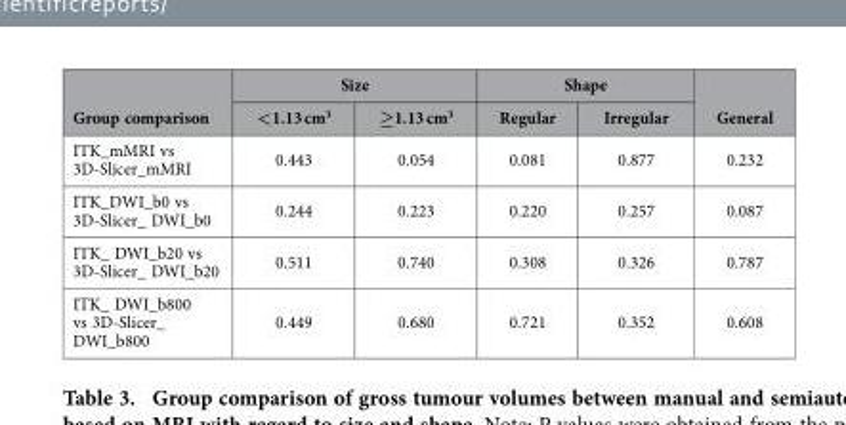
<table><thead><tr><td rowspan="2">Group comparison</td><td colspan="2">Size</td><td colspan="2">Shape</td><td rowspan="2">General</td></tr><tr><td>&lt;1.13 cm<sup>3</sup></td><td>≥1.13 cm<sup>3</sup></td><td>Regular</td><td>Irregular</td></tr></thead><tbody><tr><td>ITK_mMRI vs 3D-Slicer_mMRI</td><td>0.443</td><td>0.054</td><td>0.081</td><td>0.877</td><td>0.232</td></tr><tr><td>ITK_DWI_b0 vs 3D-Slicer_ DWI_b0</td><td>0.244</td><td>0.223</td><td>0.220</td><td>0.257</td><td>0.087</td></tr><tr><td>ITK_ DWI_b20 vs 3D-Slicer_ DWI_b20</td><td>0.511</td><td>0.740</td><td>0.308</td><td>0.326</td><td>0.787</td></tr><tr><td>ITK_ DWI_b800 vs 3D-Slicer_ DWI_b800</td><td>0.449</td><td>0.680</td><td>0.721</td><td>0.352</td><td>0.608</td></tr></tbody></table>